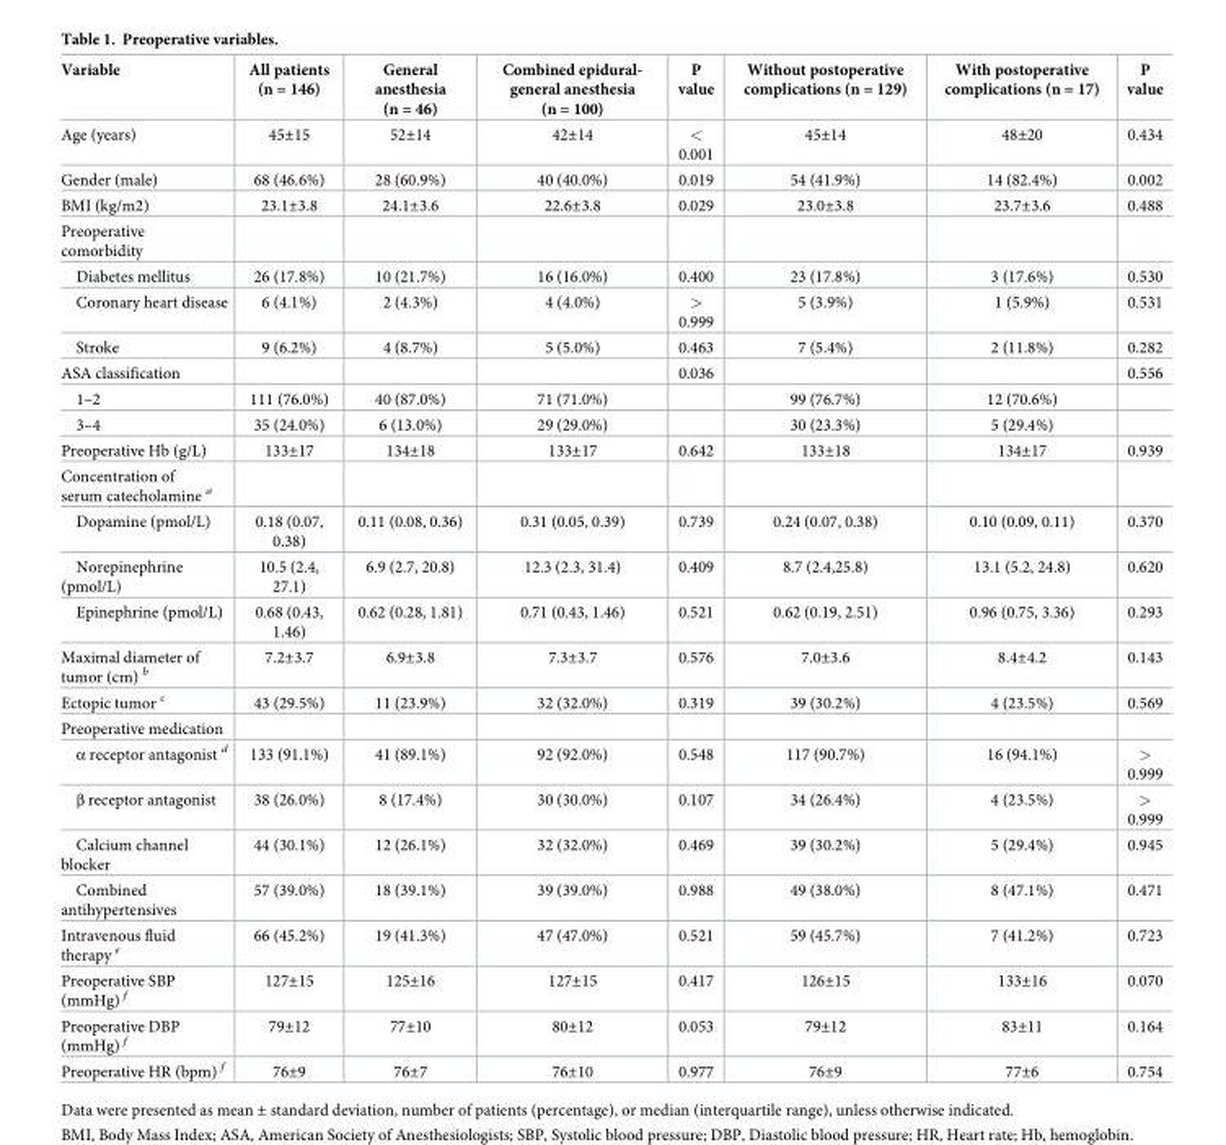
<table><thead><tr><td>Variable</td><td>All patients (n = 146)</td><td>General anesthesia (n = 46)</td><td>Combined epidural- general anesthesia (n = 100)</td><td>P value</td><td>Without postoperative complications (n = 129)</td><td>With postoperative complications (n = 17)</td><td>P value</td></tr></thead><tbody><tr><td>Age (years)</td><td>45±15</td><td>52±14</td><td>42±14</td><td>&lt; 0.001</td><td>45±14</td><td>48±20</td><td>0.434</td></tr><tr><td>Gender (male)</td><td>68 (46.6%)</td><td>28 (60.9%)</td><td>40 (40.0%)</td><td>0.019</td><td>54 (41.9%)</td><td>14 (82.4%)</td><td>0.002</td></tr><tr><td>BMI (kg/m2)</td><td>23.1±3.8</td><td>24.1±3.6</td><td>22.6±3.8</td><td>0.029</td><td>23.0±3.8</td><td>23.7±3.6</td><td>0.488</td></tr><tr><td colspan="8">Preoperative comorbidity</td></tr><tr><td>Diabetes mellitus</td><td>26 (17.8%)</td><td>10 (21.7%)</td><td>16 (16.0%)</td><td>0.400</td><td>23 (17.8%)</td><td>3 (17.6%)</td><td>0.530</td></tr><tr><td>Coronary heart disease</td><td>6 (4.1%)</td><td>2 (4.3%)</td><td>4 (4.0%)</td><td>&gt; 0.999</td><td>5 (3.9%)</td><td>1 (5.9%)</td><td>0.531</td></tr><tr><td>Stroke</td><td>9 (6.2%)</td><td>4 (8.7%)</td><td>5 (5.0%)</td><td>0.463</td><td>7 (5.4%)</td><td>2 (11.8%)</td><td>0.282</td></tr><tr><td>ASA classification</td><td></td><td></td><td></td><td>0.036</td><td></td><td></td><td>0.556</td></tr><tr><td>1–2</td><td>111 (76.0%)</td><td>40 (87.0%)</td><td>71 (71.0%)</td><td></td><td>99 (76.7%)</td><td>12 (70.6%)</td><td></td></tr><tr><td>3–4</td><td>35 (24.0%)</td><td>6 (13.0%)</td><td>29 (29.0%)</td><td></td><td>30 (23.3%)</td><td>5 (29.4%)</td><td></td></tr><tr><td>Preoperative Hb (g/L)</td><td>133±17</td><td>134±18</td><td>133±17</td><td>0.642</td><td>133±18</td><td>134±17</td><td>0.939</td></tr><tr><td colspan="8">Concentration of serum catecholamine <sup>a</sup></td></tr><tr><td>Dopamine (pmol/L)</td><td>0.18 (0.07, 0.38)</td><td>0.11 (0.08, 0.36)</td><td>0.31 (0.05, 0.39)</td><td>0.739</td><td>0.24 (0.07, 0.38)</td><td>0.10 (0.09, 0.11)</td><td>0.370</td></tr><tr><td>Norepinephrine (pmol/L)</td><td>10.5 (2.4, 27.1)</td><td>6.9 (2.7, 20.8)</td><td>12.3 (2.3, 31.4)</td><td>0.409</td><td>8.7 (2.4,25.8)</td><td>13.1 (5.2, 24.8)</td><td>0.620</td></tr><tr><td>Epinephrine (pmol/L)</td><td>0.68 (0.43, 1.46)</td><td>0.62 (0.28, 1.81)</td><td>0.71 (0.43, 1.46)</td><td>0.521</td><td>0.62 (0.19, 2.51)</td><td>0.96 (0.75, 3.36)</td><td>0.293</td></tr><tr><td>Maximal diameter of tumor (cm) <sup>b</sup></td><td>7.2±3.7</td><td>6.9±3.8</td><td>7.3±3.7</td><td>0.576</td><td>7.0±3.6</td><td>8.4±4.2</td><td>0.143</td></tr><tr><td>Ectopic tumor <sup>c</sup></td><td>43 (29.5%)</td><td>11 (23.9%)</td><td>32 (32.0%)</td><td>0.319</td><td>39 (30.2%)</td><td>4 (23.5%)</td><td>0.569</td></tr><tr><td colspan="8">Preoperative medication</td></tr><tr><td>α receptor antagonist <sup>d</sup></td><td>133 (91.1%)</td><td>41 (89.1%)</td><td>92 (92.0%)</td><td>0.548</td><td>117 (90.7%)</td><td>16 (94.1%)</td><td>&gt; 0.999</td></tr><tr><td>β receptor antagonist</td><td>38 (26.0%)</td><td>8 (17.4%)</td><td>30 (30.0%)</td><td>0.107</td><td>34 (26.4%)</td><td>4 (23.5%)</td><td>&gt; 0.999</td></tr><tr><td>Calcium channel blocker</td><td>44 (30.1%)</td><td>12 (26.1%)</td><td>32 (32.0%)</td><td>0.469</td><td>39 (30.2%)</td><td>5 (29.4%)</td><td>0.945</td></tr><tr><td>Combined antihypertensives</td><td>57 (39.0%)</td><td>18 (39.1%)</td><td>39 (39.0%)</td><td>0.988</td><td>49 (38.0%)</td><td>8 (47.1%)</td><td>0.471</td></tr><tr><td>Intravenous fluid therapy <sup>e</sup></td><td>66 (45.2%)</td><td>19 (41.3%)</td><td>47 (47.0%)</td><td>0.521</td><td>59 (45.7%)</td><td>7 (41.2%)</td><td>0.723</td></tr><tr><td>Preoperative SBP (mmHg) <sup>f</sup></td><td>127±15</td><td>125±16</td><td>127±15</td><td>0.417</td><td>126±15</td><td>133±16</td><td>0.070</td></tr><tr><td>Preoperative DBP (mmHg) <sup>f</sup></td><td>79±12</td><td>77±10</td><td>80±12</td><td>0.053</td><td>79±12</td><td>83±11</td><td>0.164</td></tr><tr><td>Preoperative HR (bpm) <sup>f</sup></td><td>76±9</td><td>76±7</td><td>76±10</td><td>0.977</td><td>76±9</td><td>77±6</td><td>0.754</td></tr></tbody></table>